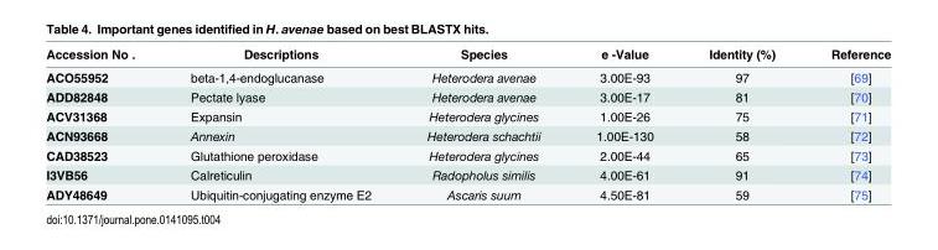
<table><thead><tr><td>Accession No .</td><td>Descriptions</td><td>Species</td><td>e -Value</td><td>Identity (%)</td><td>Reference</td></tr></thead><tbody><tr><td>ACO55952</td><td>beta-1,4-endoglucanase</td><td>Heterodera avenae</td><td>3.00E-93</td><td>97</td><td>[69]</td></tr><tr><td>ADD82848</td><td>Pectate lyase</td><td>Heterodera avenae</td><td>3.00E-17</td><td>81</td><td>[70]</td></tr><tr><td>ACV31368</td><td>Expansin</td><td>Heterodera glycines</td><td>1.00E-26</td><td>75</td><td>[71]</td></tr><tr><td>ACN93668</td><td>Annexin</td><td>Heterodera schachtii</td><td>1.00E-130</td><td>58</td><td>[72]</td></tr><tr><td>CAD38523</td><td>Glutathione peroxidase</td><td>Heterodera glycines</td><td>2.00E-44</td><td>65</td><td>[73]</td></tr><tr><td>I3VB56</td><td>Calreticulin</td><td>Radopholus similis</td><td>4.00E-61</td><td>91</td><td>[74]</td></tr><tr><td>ADY48649</td><td>Ubiquitin-conjugating enzyme E2</td><td>Ascaris suum</td><td>4.50E-81</td><td>59</td><td>[75]</td></tr></tbody></table>